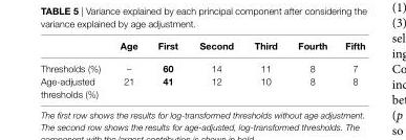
<table><thead><tr><td></td><td>age</td><td>First</td><td>second</td><td>Third</td><td>Fourth</td><td>Fifth</td></tr></thead><tbody><tr><td>Thresholds (%)</td><td>–</td><td>60</td><td>14</td><td>11</td><td>8</td><td>7</td></tr><tr><td>Age-adjusted thresholds (%)</td><td>21</td><td>41</td><td>12</td><td>10</td><td>8</td><td>8</td></tr></tbody></table>